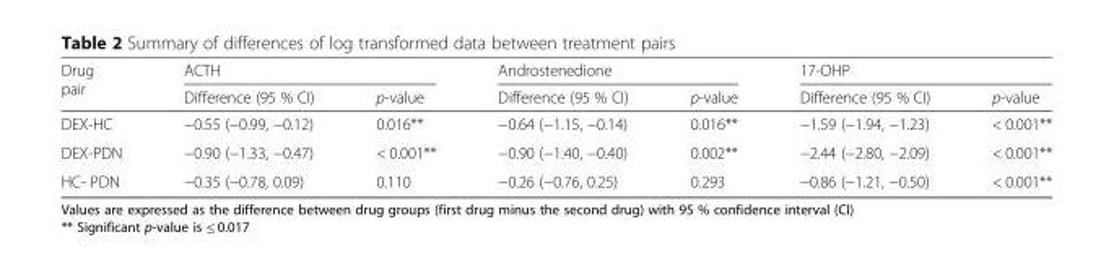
<table><thead><tr><td rowspan="2">Drug pair</td><td colspan="2">ACTH</td><td colspan="2">Androstenedione</td><td colspan="2">17-OHP</td></tr><tr><td>Difference (95 % CI)</td><td>p-value</td><td>Difference (95 % CI)</td><td>p-value</td><td>Difference (95 % CI)</td><td>p-value</td></tr></thead><tbody><tr><td>DEX-HC</td><td>−0.55 (−0.99, −0.12)</td><td>0.016**</td><td>−0.64 (−1.15, −0.14)</td><td>0.016**</td><td>−1.59 (−1.94, −1.23)</td><td>&lt; 0.001**</td></tr><tr><td>DEX-PDN</td><td>−0.90 (−1.33, −0.47)</td><td>&lt; 0.001**</td><td>−0.90 (−1.40, −0.40)</td><td>0.002**</td><td>−2.44 (−2.80, −2.09)</td><td>&lt; 0.001**</td></tr><tr><td>HC- PDN</td><td>−0.35 (−0.78, 0.09)</td><td>0.110</td><td>−0.26 (−0.76, 0.25)</td><td>0.293</td><td>−0.86 (−1.21, −0.50)</td><td>&lt; 0.001**</td></tr></tbody></table>